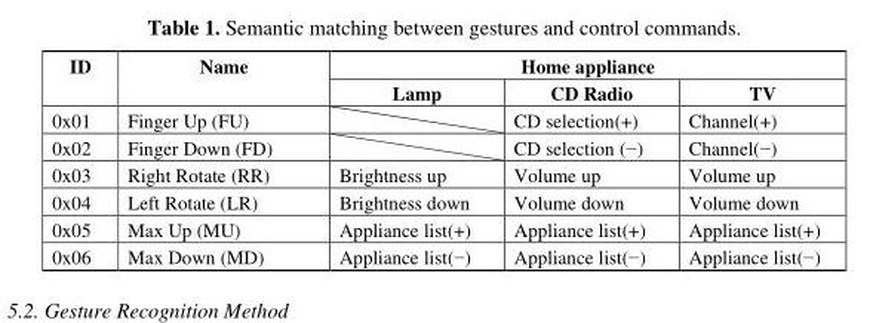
<table><thead><tr><td rowspan="2">ID</td><td rowspan="2">Name</td><td colspan="3">Home appliance</td></tr><tr><td>Lamp</td><td>CD Radio</td><td>TV</td></tr></thead><tbody><tr><td>0x01</td><td>Finger Up (FU)</td><td></td><td>CD selection(+)</td><td>Channel(+)</td></tr><tr><td>0x02</td><td>Finger Down (FD)</td><td></td><td>CD selection (−)</td><td>Channel(−)</td></tr><tr><td>0x03</td><td>Right Rotate (RR)</td><td>Brightness up</td><td>Volume up</td><td>Volume up</td></tr><tr><td>0x04</td><td>Left Rotate (LR)</td><td>Brightness down</td><td>Volume down</td><td>Volume down</td></tr><tr><td>0x05</td><td>Max Up (MU)</td><td>Appliance list(+)</td><td>Appliance list(+)</td><td>Appliance list(+)</td></tr><tr><td>0x06</td><td>Max Down (MD)</td><td>Appliance list(−)</td><td>Appliance list(−)</td><td>Appliance list(−)</td></tr></tbody></table>